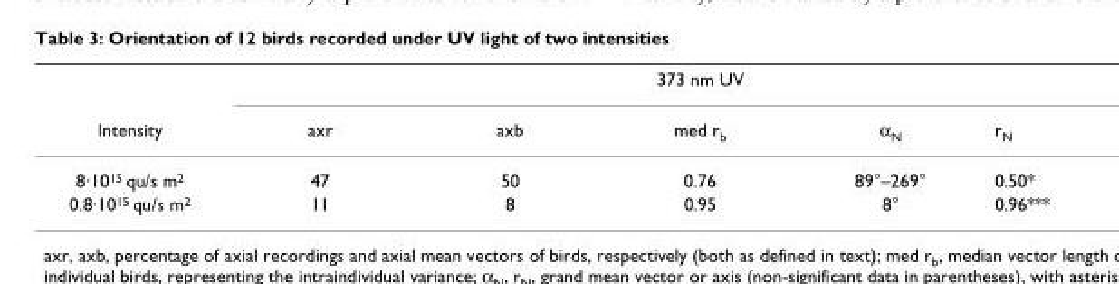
<table><thead><tr><td rowspan="2">Intensity</td><td colspan="5">373 nm UV</td></tr><tr><td>axr</td><td>axb</td><td>med r<sub>b</sub></td><td>α<sub>N</sub></td><td>r<sub>N</sub></td></tr></thead><tbody><tr><td>8·10<sup>15</sup> qu/s m<sup>2</sup></td><td>47</td><td>50</td><td>0.76</td><td>89°–269°</td><td>0.50*</td></tr><tr><td>0.8·10<sup>15</sup> qu/s m<sup>2</sup></td><td>11</td><td>8</td><td>0.95</td><td>8°</td><td>0.96***</td></tr></tbody></table>